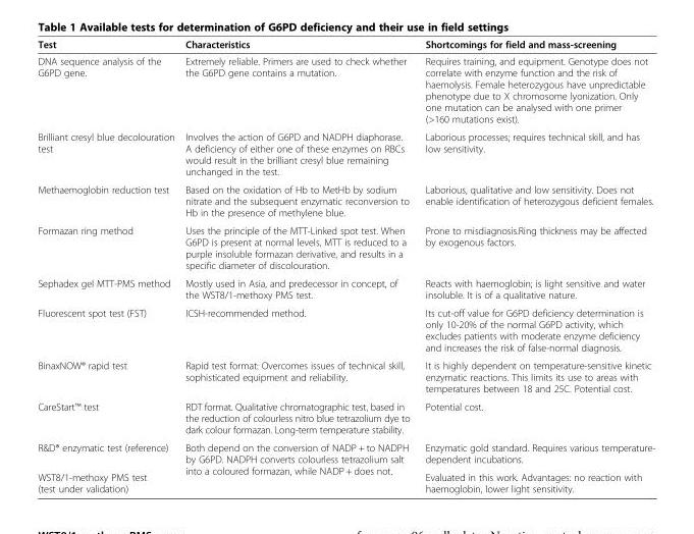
<table><thead><tr><td>Test</td><td>Characteristics</td><td>Shortcomings for field and mass-screening</td></tr></thead><tbody><tr><td>DNA sequence analysis of the G6PD gene.</td><td>Extremely reliable. Primers are used to check whether the G6PD gene contains a mutation.</td><td>Requires training, and equipment. Genotype does not correlate with enzyme function and the risk of haemolysis. Female heterozygous have unpredictable phenotype due to X chromosome lyonization. Only one mutation can be analysed with one primer (&gt;160 mutations exist).</td></tr><tr><td>Brilliant cresyl blue decolouration test</td><td>Involves the action of G6PD and NADPH diaphorase. A deficiency of either one of these enzymes on RBCs would result in the brilliant cresyl blue remaining unchanged in the test.</td><td>Laborious processes; requires technical skill, and has low sensitivity.</td></tr><tr><td>Methaemoglobin reduction test</td><td>Based on the oxidation of Hb to MetHb by sodium nitrate and the subsequent enzymatic reconversion to Hb in the presence of methylene blue.</td><td>Laborious, qualitative and low sensitivity. Does not enable identification of heterozygous deficient females.</td></tr><tr><td>Formazan ring method</td><td>Uses the principle of the MTT-Linked spot test. When G6PD is present at normal levels, MTT is reduced to a purple insoluble formazan derivative, and results in a specific diameter of discolouration.</td><td>Prone to misdiagnosis.Ring thickness may be affected by exogenous factors.</td></tr><tr><td>Sephadex gel MTT-PMS method</td><td>Mostly used in Asia, and predecessor in concept, of the WST8/1-methoxy PMS test.</td><td>Reacts with haemoglobin; is light sensitive and water insoluble. It is of a qualitative nature.</td></tr><tr><td>Fluorescent spot test (FST)</td><td>ICSH-recommended method.</td><td>Its cut-off value for G6PD deficiency determination is only 10-20% of the normal G6PD activity, which excludes patients with moderate enzyme deficiency and increases the risk of false-normal diagnosis.</td></tr><tr><td>BinaxNOW® rapid test</td><td>Rapid test format: Overcomes issues of technical skill, sophisticated equipment and reliability.</td><td>It is highly dependent on temperature-sensitive kinetic enzymatic reactions. This limits its use to areas with temperatures between 18 and 25C. Potential cost.</td></tr><tr><td>CareStart™ test</td><td>RDT format. Qualitative chromatographic test, based in the reduction of colourless nitro blue tetrazolium dye to dark colour formazan. Long-term temperature stability.</td><td>Potential cost.</td></tr><tr><td>R&amp;D® enzymatic test (reference)</td><td rowspan="2">Both depend on the conversion of NADP + to NADPH by G6PD. NADPH converts colourless tetrazolium salt into a coloured formazan, while NADP + does not.</td><td>Enzymatic gold standard. Requires various temperature- dependent incubations.</td></tr><tr><td>WST8/1-methoxy PMS test (test under validation)</td><td>Evaluated in this work. Advantages: no reaction with haemoglobin, lower light sensitivity.</td></tr></tbody></table>